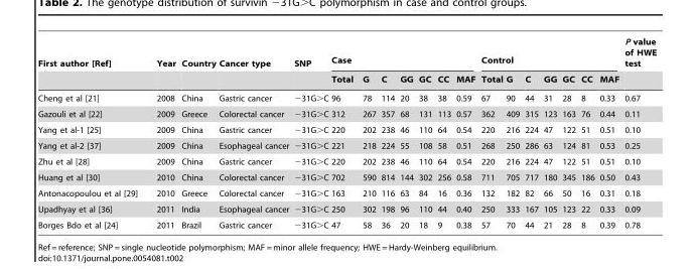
<table><thead><tr><td rowspan="2">First author [Ref]</td><td rowspan="2">Year</td><td rowspan="2">Country</td><td rowspan="2">Cancer type</td><td rowspan="2">SNP</td><td colspan="7">Case</td><td colspan="7">Control</td><td rowspan="2">P value of HWE test</td></tr><tr><td>Total</td><td>G</td><td>C</td><td>GG</td><td>GC</td><td>CC</td><td>MAF</td><td>Total</td><td>G</td><td>C</td><td>GG</td><td>GC</td><td>CC</td><td>MAF</td></tr></thead><tbody><tr><td>Cheng et al [21]</td><td>2008</td><td>China</td><td>Gastric cancer</td><td>−31G&gt;C</td><td>96</td><td>78</td><td>114</td><td>20</td><td>38</td><td>38</td><td>0.59</td><td>67</td><td>90</td><td>44</td><td>31</td><td>28</td><td>8</td><td>0.33</td><td>0.67</td></tr><tr><td>Gazouli et al [22]</td><td>2009</td><td>Greece</td><td>Colorectal cancer</td><td>−31G&gt;C</td><td>312</td><td>267</td><td>357</td><td>68</td><td>131</td><td>113</td><td>0.57</td><td>362</td><td>409</td><td>315</td><td>123</td><td>163</td><td>76</td><td>0.44</td><td>0.11</td></tr><tr><td>Yang et al-1 [25]</td><td>2009</td><td>China</td><td>Gastric cancer</td><td>−31G&gt;C</td><td>220</td><td>202</td><td>238</td><td>46</td><td>110</td><td>64</td><td>0.54</td><td>220</td><td>216</td><td>224</td><td>47</td><td>122</td><td>51</td><td>0.51</td><td>0.10</td></tr><tr><td>Yang et al-2 [37]</td><td>2009</td><td>China</td><td>Esophageal cancer</td><td>−31G&gt;C</td><td>221</td><td>218</td><td>224</td><td>55</td><td>108</td><td>58</td><td>0.51</td><td>268</td><td>250</td><td>286</td><td>63</td><td>124</td><td>81</td><td>0.53</td><td>0.25</td></tr><tr><td>Zhu et al [28]</td><td>2009</td><td>China</td><td>Gastric cancer</td><td>−31G&gt;C</td><td>220</td><td>202</td><td>238</td><td>46</td><td>110</td><td>64</td><td>0.54</td><td>220</td><td>216</td><td>224</td><td>47</td><td>122</td><td>51</td><td>0.51</td><td>0.10</td></tr><tr><td>Huang et al [30]</td><td>2010</td><td>China</td><td>Colorectal cancer</td><td>−31G&gt;C</td><td>702</td><td>590</td><td>814</td><td>144</td><td>302</td><td>256</td><td>0.58</td><td>711</td><td>705</td><td>717</td><td>180</td><td>345</td><td>186</td><td>0.50</td><td>0.43</td></tr><tr><td>Antonacopoulou et al [29]</td><td>2010</td><td>Greece</td><td>Colorectal cancer</td><td>−31G&gt;C</td><td>163</td><td>210</td><td>116</td><td>63</td><td>84</td><td>16</td><td>0.36</td><td>132</td><td>182</td><td>82</td><td>66</td><td>50</td><td>16</td><td>0.31</td><td>0.18</td></tr><tr><td>Upadhyay et al [36]</td><td>2011</td><td>India</td><td>Esophageal cancer</td><td>−31G&gt;C</td><td>250</td><td>302</td><td>198</td><td>96</td><td>110</td><td>44</td><td>0.40</td><td>250</td><td>333</td><td>167</td><td>105</td><td>123</td><td>22</td><td>0.33</td><td>0.09</td></tr><tr><td>Borges Bdo et al [24]</td><td>2011</td><td>Brazil</td><td>Gastric cancer</td><td>−31G&gt;C</td><td>47</td><td>58</td><td>36</td><td>20</td><td>18</td><td>9</td><td>0.38</td><td>57</td><td>70</td><td>44</td><td>21</td><td>28</td><td>8</td><td>0.39</td><td>0.78</td></tr></tbody></table>